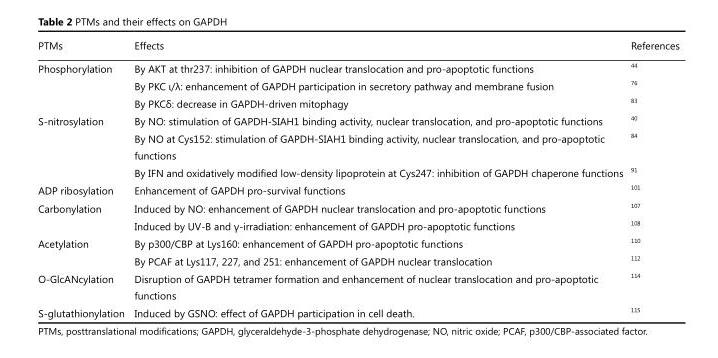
<table><thead><tr><td>PTMs</td><td>Effects</td><td>References</td></tr></thead><tbody><tr><td rowspan="3">Phosphorylation</td><td>By AKT at thr237: inhibition of GAPDH nuclear translocation and pro-apoptotic functions</td><td><sup>44</sup></td></tr><tr><td>By PKC ι/λ: enhancement of GAPDH participation in secretory pathway and membrane fusion</td><td><sup>76</sup></td></tr><tr><td>By PKCδ: decrease in GAPDH-driven mitophagy</td><td><sup>83</sup></td></tr><tr><td rowspan="3">S-nitrosylation</td><td>By NO: stimulation of GAPDH-SIAH1 binding activity, nuclear translocation, and pro-apoptotic functions</td><td><sup>40</sup></td></tr><tr><td>By NO at Cys152: stimulation of GAPDH-SIAH1 binding activity, nuclear translocation, and pro-apoptotic functions</td><td><sup>84</sup></td></tr><tr><td>By IFN and oxidatively modified low-density lipoprotein at Cys247: inhibition of GAPDH chaperone functions</td><td><sup>91</sup></td></tr><tr><td>ADP ribosylation</td><td>Enhancement of GAPDH pro-survival functions</td><td><sup>101</sup></td></tr><tr><td rowspan="2">Carbonylation</td><td>Induced by NO: enhancement of GAPDH nuclear translocation and pro-apoptotic functions</td><td><sup>107</sup></td></tr><tr><td>Induced by UV-B and γ-irradiation: enhancement of GAPDH pro-apoptotic functions</td><td><sup>108</sup></td></tr><tr><td rowspan="2">Acetylation</td><td>By p300/CBP at Lys160: enhancement of GAPDH pro-apoptotic functions</td><td><sup>110</sup></td></tr><tr><td>By PCAF at Lys117, 227, and 251: enhancement of GAPDH nuclear translocation</td><td><sup>112</sup></td></tr><tr><td>O-GlcANcylation</td><td>Disruption of GAPDH tetramer formation and enhancement of nuclear translocation and pro-apoptotic functions</td><td><sup>114</sup></td></tr><tr><td>S-glutathionylation</td><td>Induced by GSNO: effect of GAPDH participation in cell death.</td><td><sup>115</sup></td></tr></tbody></table>